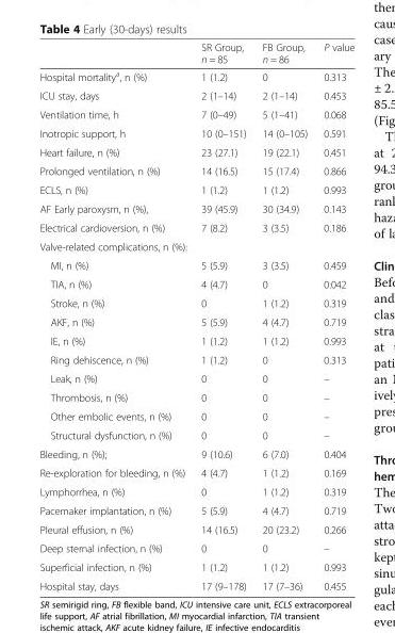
<table><thead><tr><td></td><td>SR Group, n = 85</td><td>FB Group, n = 86</td><td>Р value</td></tr></thead><tbody><tr><td>Hospital mortality<sup>a</sup>, n (%)</td><td>1 (1.2)</td><td>0</td><td>0.313</td></tr><tr><td>ICU stay, days</td><td>2 (1–14)</td><td>2 (1–14)</td><td>0.453</td></tr><tr><td>Ventilation time, h</td><td>7 (0–49)</td><td>5 (1–41)</td><td>0.068</td></tr><tr><td>Inotropic support, h</td><td>10 (0–151)</td><td>14 (0–105)</td><td>0.591</td></tr><tr><td>Heart failure, n (%)</td><td>23 (27.1)</td><td>19 (22.1)</td><td>0.451</td></tr><tr><td>Prolonged ventilation, n (%)</td><td>14 (16.5)</td><td>15 (17.4)</td><td>0.866</td></tr><tr><td>ECLS, n (%)</td><td>1 (1.2)</td><td>1 (1.2)</td><td>0.993</td></tr><tr><td>AF Early paroxysm, n (%),</td><td>39 (45.9)</td><td>30 (34.9)</td><td>0.143</td></tr><tr><td>Electrical cardioversion, n (%)</td><td>7 (8.2)</td><td>3 (3.5)</td><td>0.186</td></tr><tr><td colspan="4">Valve-related complications, n (%):</td></tr><tr><td>MI, n (%)</td><td>5 (5.9)</td><td>3 (3.5)</td><td>0.459</td></tr><tr><td>TIA, n (%)</td><td>4 (4.7)</td><td>0</td><td>0.042</td></tr><tr><td>Stroke, n (%)</td><td>0</td><td>1 (1.2)</td><td>0.319</td></tr><tr><td>AKF, n (%)</td><td>5 (5.9)</td><td>4 (4.7)</td><td>0.719</td></tr><tr><td>IE, n (%)</td><td>1 (1.2)</td><td>1 (1.2)</td><td>0.993</td></tr><tr><td>Ring dehiscence, n (%)</td><td>1 (1.2)</td><td>0</td><td>0.313</td></tr><tr><td>Leak, n (%)</td><td>0</td><td>0</td><td>–</td></tr><tr><td>Thrombosis, n (%)</td><td>0</td><td>0</td><td>–</td></tr><tr><td>Other embolic events, n (%)</td><td>0</td><td>0</td><td>–</td></tr><tr><td>Structural dysfunction, n (%)</td><td>0</td><td>0</td><td>–</td></tr><tr><td>Bleeding, n (%);</td><td>9 (10.6)</td><td>6 (7.0)</td><td>0.404</td></tr><tr><td>Re-exploration for bleeding, n (%)</td><td>4 (4.7)</td><td>1 (1.2)</td><td>0.169</td></tr><tr><td>Lymphorrhea, n (%)</td><td>0</td><td>1 (1.2)</td><td>0.319</td></tr><tr><td>Pacemaker implantation, n (%)</td><td>5 (5.9)</td><td>4 (4.7)</td><td>0.719</td></tr><tr><td>Pleural effusion, n (%)</td><td>14 (16.5)</td><td>20 (23.2)</td><td>0.266</td></tr><tr><td>Deep sternal infection, n (%)</td><td>0</td><td>0</td><td>–</td></tr><tr><td>Superficial infection, n (%)</td><td>1 (1.2)</td><td>1 (1.2)</td><td>0.993</td></tr><tr><td>Hospital stay, days</td><td>17 (9–178)</td><td>17 (7–36)</td><td>0.455</td></tr></tbody></table>